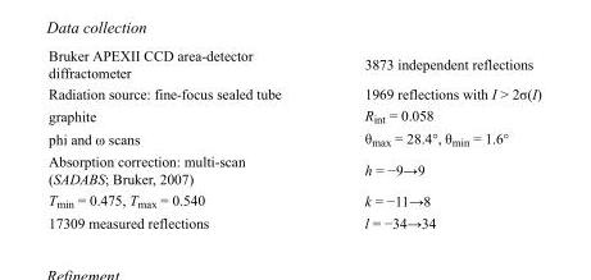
<table><tbody><tr><td>Bruker APEXII CCD area-detector diffractometer</td><td>3873 independent reflections</td></tr><tr><td>Radiation source: fine-focus sealed tube</td><td>1969 reflections with I &gt; 2σ(I)</td></tr><tr><td>graphite</td><td>R<sub>int</sub> = 0.058</td></tr><tr><td>phi and ω scans</td><td>θ<sub>max</sub> = 28.4°, θ<sub>min</sub> = 1.6°</td></tr><tr><td>Absorption correction: multi-scan (SADABS; Bruker, 2007)</td><td>h = −9→9</td></tr><tr><td>T<sub>min</sub> = 0.475, T<sub>max</sub> = 0.540</td><td>k = −11→8</td></tr><tr><td>17309 measured reflections</td><td>l = −34→34</td></tr></tbody></table>